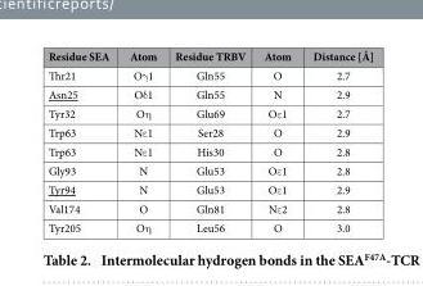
<table><thead><tr><td>Residue SEA</td><td>Atom</td><td>Residue TRBV</td><td>Atom</td><td>Distance [Å]</td></tr></thead><tbody><tr><td>Thr21</td><td>Oγ 1</td><td>Gln55</td><td>O</td><td>2.7</td></tr><tr><td>Asn25</td><td>Oδ 1</td><td>Gln55</td><td>N</td><td>2.9</td></tr><tr><td>Tyr32</td><td>Oη</td><td>Glu69</td><td>Oε 1</td><td>2.7</td></tr><tr><td>Trp63</td><td>Nε 1</td><td>Ser28</td><td>O</td><td>2.9</td></tr><tr><td>Trp63</td><td>Nε 1</td><td>His30</td><td>O</td><td>2.8</td></tr><tr><td>Gly93</td><td>N</td><td>Glu53</td><td>Oε 1</td><td>2.8</td></tr><tr><td>Tyr94</td><td>N</td><td>Glu53</td><td>Oε 1</td><td>2.9</td></tr><tr><td>Val174</td><td>O</td><td>Gln81</td><td>Nε 2</td><td>2.8</td></tr><tr><td>Tyr205</td><td>Oη</td><td>Leu56</td><td>O</td><td>3.0</td></tr></tbody></table>